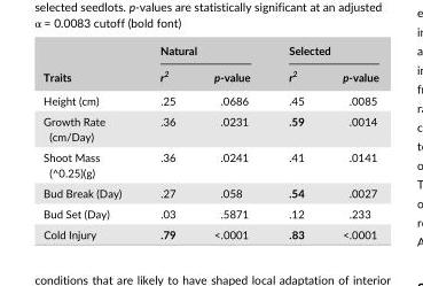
<table><thead><tr><td rowspan="2">Traits</td><td colspan="2">Natural</td><td colspan="2">Selected</td></tr><tr><td>r<sup>2</sup></td><td>p- value</td><td>r<sup>2</sup></td><td>p- value</td></tr></thead><tbody><tr><td>Height (cm)</td><td>.25</td><td>.0686</td><td>.45</td><td>.0085</td></tr><tr><td>Growth Rate (cm/Day)</td><td>.36</td><td>.0231</td><td>.59</td><td>.0014</td></tr><tr><td>Shoot Mass (^0.25)(g)</td><td>.36</td><td>.0241</td><td>.41</td><td>.0141</td></tr><tr><td>Bud Break (Day)</td><td>.27</td><td>.058</td><td>.54</td><td>.0027</td></tr><tr><td>Bud Set (Day)</td><td>.03</td><td>.5871</td><td>.12</td><td>.233</td></tr><tr><td>Cold Injury</td><td>.79</td><td>&lt;.0001</td><td>.83</td><td>&lt;.0001</td></tr></tbody></table>